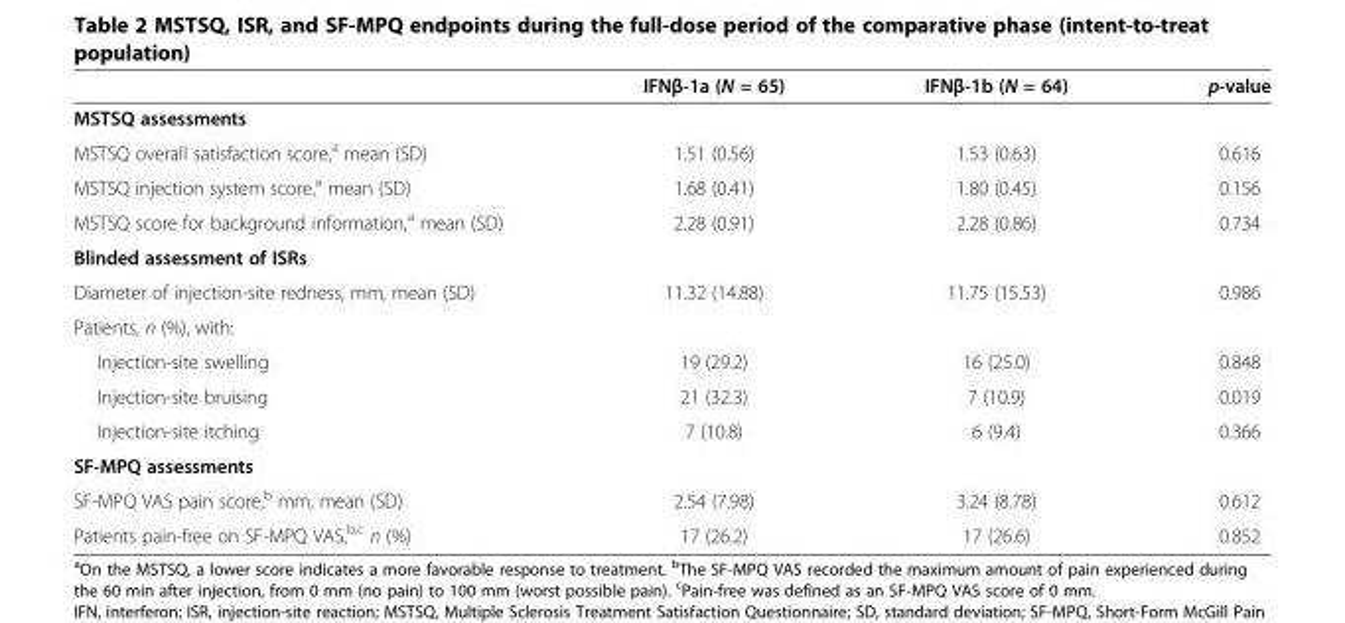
<table><thead><tr><td></td><td>IFNβ-1a (N = 65)</td><td>IFNβ-1b (N = 64)</td><td>p-value</td></tr></thead><tbody><tr><td colspan="4">MSTSQ assessments</td></tr><tr><td>MSTSQ overall satisfaction score,<sup>a</sup> mean (SD)</td><td>1.51 (0.56)</td><td>1.53 (0.63)</td><td>0.616</td></tr><tr><td>MSTSQ injection system score,<sup>a</sup> mean (SD)</td><td>1.68 (0.41)</td><td>1.80 (0.45)</td><td>0.156</td></tr><tr><td>MSTSQ score for background information,<sup>a</sup> mean (SD)</td><td>2.28 (0.91)</td><td>2.28 (0.86)</td><td>0.734</td></tr><tr><td colspan="4">Blinded assessment of ISRs</td></tr><tr><td>Diameter of injection-site redness, mm, mean (SD)</td><td>11.32 (14.88)</td><td>11.75 (15.53)</td><td>0.986</td></tr><tr><td colspan="4">Patients, n (%), with:</td></tr><tr><td>Injection-site swelling</td><td>19 (29.2)</td><td>16 (25.0)</td><td>0.848</td></tr><tr><td>Injection-site bruising</td><td>21 (32.3)</td><td>7 (10.9)</td><td>0.019</td></tr><tr><td>Injection-site itching</td><td>7 (10.8)</td><td>6 (9.4)</td><td>0.366</td></tr><tr><td colspan="4">SF-MPQ assessments</td></tr><tr><td>SF-MPQ VAS pain score,<sup>b</sup> mm, mean (SD)</td><td>2.54 (7.98)</td><td>3.24 (8.78)</td><td>0.612</td></tr><tr><td>Patients pain-free on SF-MPQ VAS,<sup>b,c</sup> n (%)</td><td>17 (26.2)</td><td>17 (26.6)</td><td>0.852</td></tr></tbody></table>